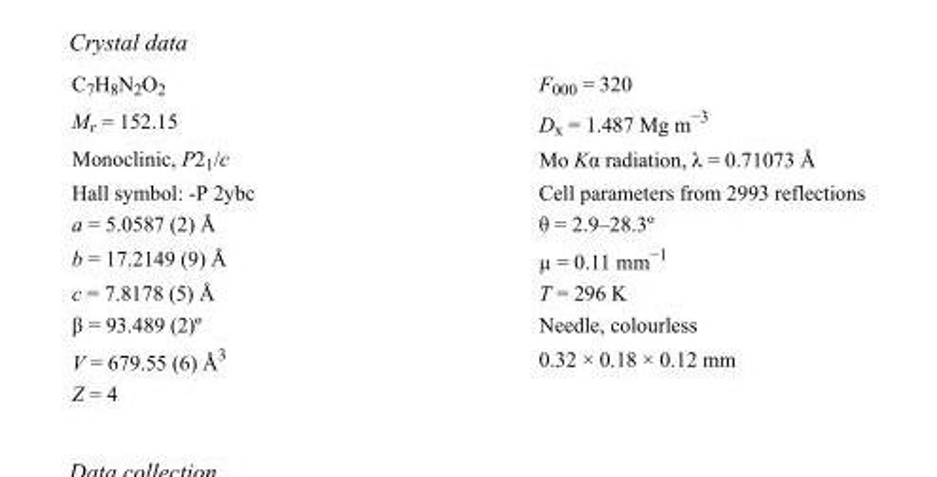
<table><tbody><tr><td>C<sub>7</sub>H<sub>8</sub>N<sub>2</sub>O<sub>2</sub></td><td>F000 = 320</td></tr><tr><td>M<sub>r</sub> = 152.15</td><td>D<sub>x</sub> = 1.487 Mg m<sup>−3</sup></td></tr><tr><td>Monoclinic, P2<sub>1</sub>/c</td><td>Mo Kα radiation, λ = 0.71073 Å</td></tr><tr><td>Hall symbol: -P 2ybc</td><td>Cell parameters from 2993 reflections</td></tr><tr><td>a = 5.0587 (2) Å</td><td>θ = 2.9–28.3º</td></tr><tr><td>b = 17.2149 (9) Å</td><td>µ = 0.11 mm<sup>−1</sup></td></tr><tr><td>c = 7.8178 (5) Å</td><td>T = 296 K</td></tr><tr><td>β = 93.489 (2)º</td><td>Needle, colourless</td></tr><tr><td>V = 679.55 (6) Å<sup>3</sup></td><td>0.32 × 0.18 × 0.12 mm</td></tr><tr><td>Z = 4</td><td></td></tr></tbody></table>